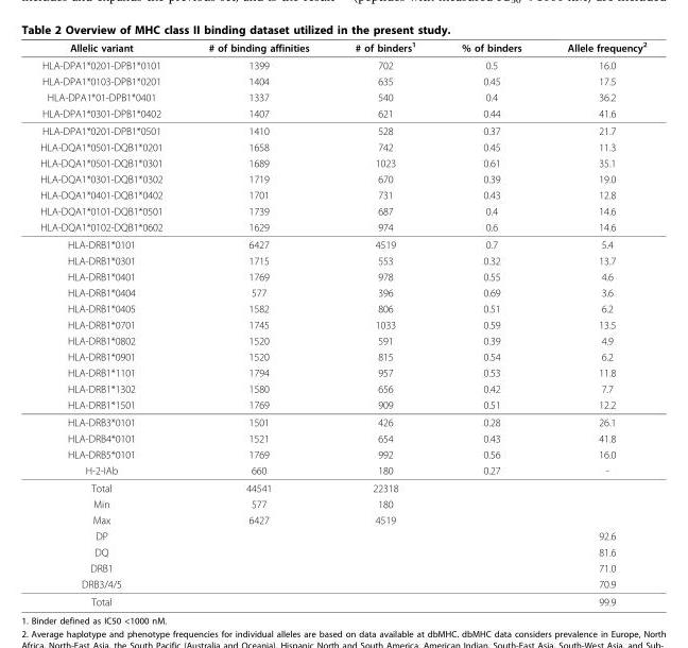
<table><thead><tr><td>Allelic variant</td><td># of binding affinities</td><td># of binders<sup>1</sup></td><td>% of binders</td><td>Allele frequency<sup>2</sup></td></tr></thead><tbody><tr><td>HLA-DPA1*0201-DPB1*0101</td><td>1399</td><td>702</td><td>0.5</td><td>16.0</td></tr><tr><td>HLA-DPA1*0103-DPB1*0201</td><td>1404</td><td>635</td><td>0.45</td><td>17.5</td></tr><tr><td>HLA-DPA1*01-DPB1*0401</td><td>1337</td><td>540</td><td>0.4</td><td>36.2</td></tr><tr><td>HLA-DPA1*0301-DPB1*0402</td><td>1407</td><td>621</td><td>0.44</td><td>41.6</td></tr><tr><td>HLA-DPA1*0201-DPB1*0501</td><td>1410</td><td>528</td><td>0.37</td><td>21.7</td></tr><tr><td>HLA-DQA1*0501-DQB1*0201</td><td>1658</td><td>742</td><td>0.45</td><td>11.3</td></tr><tr><td>HLA-DQA1*0501-DQB1*0301</td><td>1689</td><td>1023</td><td>0.61</td><td>35.1</td></tr><tr><td>HLA-DQA1*0301-DQB1*0302</td><td>1719</td><td>670</td><td>0.39</td><td>19.0</td></tr><tr><td>HLA-DQA1*0401-DQB1*0402</td><td>1701</td><td>731</td><td>0.43</td><td>12.8</td></tr><tr><td>HLA-DQA1*0101-DQB1*0501</td><td>1739</td><td>687</td><td>0.4</td><td>14.6</td></tr><tr><td>HLA-DQA1*0102-DQB1*0602</td><td>1629</td><td>974</td><td>0.6</td><td>14.6</td></tr><tr><td>HLA-DRB1*0101</td><td>6427</td><td>4519</td><td>0.7</td><td>5.4</td></tr><tr><td>HLA-DRB1*0301</td><td>1715</td><td>553</td><td>0.32</td><td>13.7</td></tr><tr><td>HLA-DRB1*0401</td><td>1769</td><td>978</td><td>0.55</td><td>4.6</td></tr><tr><td>HLA-DRB1*0404</td><td>577</td><td>396</td><td>0.69</td><td>3.6</td></tr><tr><td>HLA-DRB1*0405</td><td>1582</td><td>806</td><td>0.51</td><td>6.2</td></tr><tr><td>HLA-DRB1*0701</td><td>1745</td><td>1033</td><td>0.59</td><td>13.5</td></tr><tr><td>HLA-DRB1*0802</td><td>1520</td><td>591</td><td>0.39</td><td>4.9</td></tr><tr><td>HLA-DRB1*0901</td><td>1520</td><td>815</td><td>0.54</td><td>6.2</td></tr><tr><td>HLA-DRB1*1101</td><td>1794</td><td>957</td><td>0.53</td><td>11.8</td></tr><tr><td>HLA-DRB1*1302</td><td>1580</td><td>656</td><td>0.42</td><td>7.7</td></tr><tr><td>HLA-DRB1*1501</td><td>1769</td><td>909</td><td>0.51</td><td>12.2</td></tr><tr><td>HLA-DRB3*0101</td><td>1501</td><td>426</td><td>0.28</td><td>26.1</td></tr><tr><td>HLA-DRB4*0101</td><td>1521</td><td>654</td><td>0.43</td><td>41.8</td></tr><tr><td>HLA-DRB5*0101</td><td>1769</td><td>992</td><td>0.56</td><td>16.0</td></tr><tr><td>H-2-IAb</td><td>660</td><td>180</td><td>0.27</td><td>-</td></tr><tr><td>Total</td><td>44541</td><td>22318</td><td></td><td></td></tr><tr><td>Min</td><td>577</td><td>180</td><td></td><td></td></tr><tr><td>Max</td><td>6427</td><td>4519</td><td></td><td></td></tr><tr><td>DP</td><td></td><td></td><td></td><td>92.6</td></tr><tr><td>DQ</td><td></td><td></td><td></td><td>81.6</td></tr><tr><td>DRB1</td><td></td><td></td><td></td><td>71.0</td></tr><tr><td>DRB3/4/5</td><td></td><td></td><td></td><td>70.9</td></tr><tr><td>Total</td><td></td><td></td><td></td><td>99.9</td></tr></tbody></table>